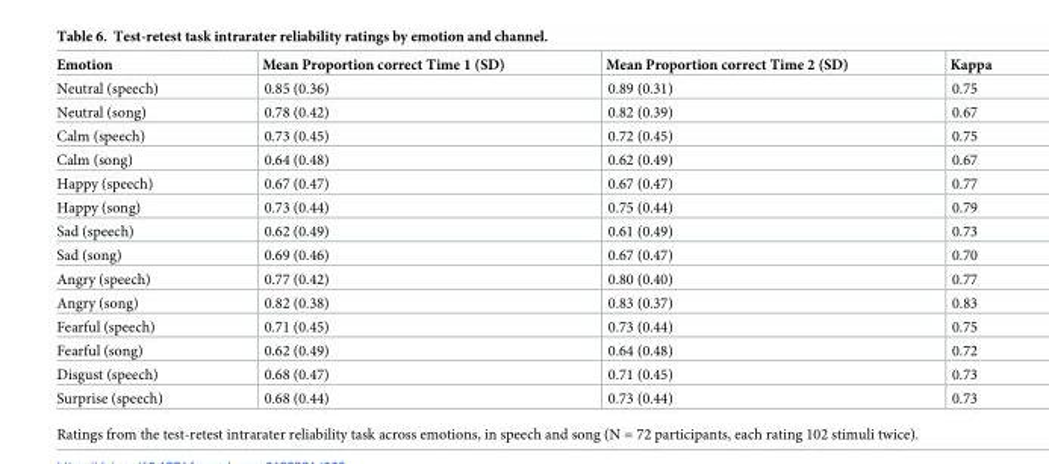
<table><thead><tr><td>Emotion</td><td>Mean Proportion correct Time 1 (SD)</td><td>Mean Proportion correct Time 2 (SD)</td><td>Kappa</td></tr></thead><tbody><tr><td>Neutral (speech)</td><td>0.85 (0.36)</td><td>0.89 (0.31)</td><td>0.75</td></tr><tr><td>Neutral (song)</td><td>0.78 (0.42)</td><td>0.82 (0.39)</td><td>0.67</td></tr><tr><td>Calm (speech)</td><td>0.73 (0.45)</td><td>0.72 (0.45)</td><td>0.75</td></tr><tr><td>Calm (song)</td><td>0.64 (0.48)</td><td>0.62 (0.49)</td><td>0.67</td></tr><tr><td>Happy (speech)</td><td>0.67 (0.47)</td><td>0.67 (0.47)</td><td>0.77</td></tr><tr><td>Happy (song)</td><td>0.73 (0.44)</td><td>0.75 (0.44)</td><td>0.79</td></tr><tr><td>Sad (speech)</td><td>0.62 (0.49)</td><td>0.61 (0.49)</td><td>0.73</td></tr><tr><td>Sad (song)</td><td>0.69 (0.46)</td><td>0.67 (0.47)</td><td>0.70</td></tr><tr><td>Angry (speech)</td><td>0.77 (0.42)</td><td>0.80 (0.40)</td><td>0.77</td></tr><tr><td>Angry (song)</td><td>0.82 (0.38)</td><td>0.83 (0.37)</td><td>0.83</td></tr><tr><td>Fearful (speech)</td><td>0.71 (0.45)</td><td>0.73 (0.44)</td><td>0.75</td></tr><tr><td>Fearful (song)</td><td>0.62 (0.49)</td><td>0.64 (0.48)</td><td>0.72</td></tr><tr><td>Disgust (speech)</td><td>0.68 (0.47)</td><td>0.71 (0.45)</td><td>0.73</td></tr><tr><td>Surprise (speech)</td><td>0.68 (0.44)</td><td>0.73 (0.44)</td><td>0.73</td></tr></tbody></table>